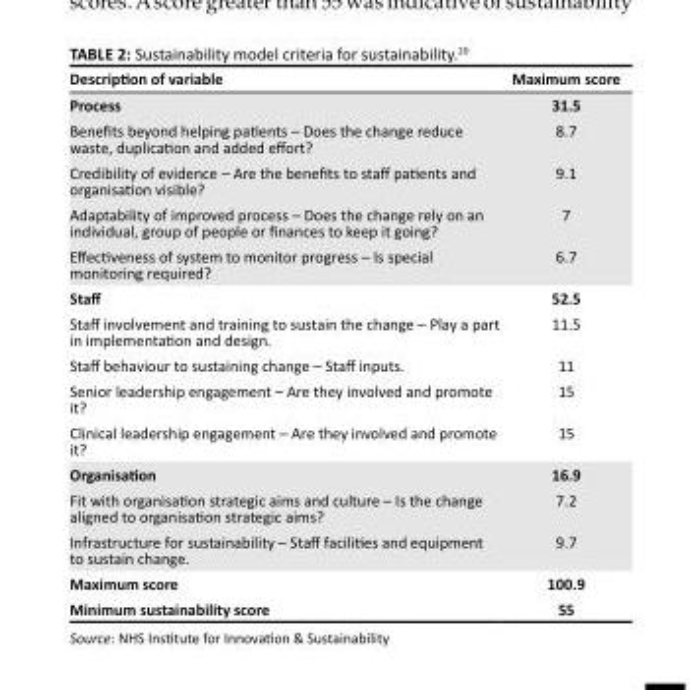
<table><thead><tr><td>Description of variable</td><td>Maximum score</td></tr></thead><tbody><tr><td>Process</td><td>31.5</td></tr><tr><td>Benefits beyond helping patients – Does the change reduce waste, duplication and added effort?</td><td>8.7</td></tr><tr><td>Credibility of evidence – Are the benefits to staff patients and organisation visible?</td><td>9.1</td></tr><tr><td>Adaptability of improved process – Does the change rely on an individual, group of people or finances to keep it going?</td><td>7</td></tr><tr><td>Effectiveness of system to monitor progress – Is special monitoring required?</td><td>6.7</td></tr><tr><td>Staff</td><td>52.5</td></tr><tr><td>Staff involvement and training to sustain the change – Play a part in implementation and design.</td><td>11.5</td></tr><tr><td>Staff behaviour to sustaining change – Staff inputs.</td><td>11</td></tr><tr><td>Senior leadership engagement – Are they involved and promote it?</td><td>15</td></tr><tr><td>Clinical leadership engagement – Are they involved and promote it?</td><td>15</td></tr><tr><td>Organisation</td><td>16.9</td></tr><tr><td>Fit with organisation strategic aims and culture – Is the change aligned to organisation strategic aims?</td><td>7.2</td></tr><tr><td>Infrastructure for sustainability – Staff facilities and equipment to sustain change.</td><td>9.7</td></tr><tr><td>Maximum score</td><td>100.9</td></tr><tr><td>Minimum sustainability score</td><td>55</td></tr></tbody></table>